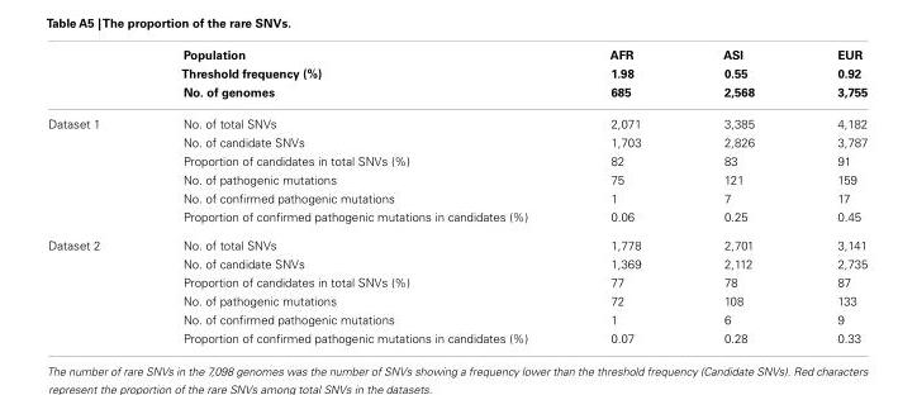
<table><thead><tr><td rowspan="3"></td><td rowspan="3">Population Threshold frequency (%) No. of genomes</td><td rowspan="3">AFR 1.98 685</td><td rowspan="3">ASI 0.55 2,568</td><td rowspan="3">EUR 0.92 3,755</td></tr><tr></tr><tr></tr></thead><tbody><tr><td rowspan="6">Dataset 1</td><td>No. of total SNVs</td><td>2,071</td><td>3,385</td><td>4,182</td></tr><tr><td>No. of candidate SNVs</td><td>1,703</td><td>2,826</td><td>3,787</td></tr><tr><td>Proportion of candidates in total SNVs (%)</td><td>82</td><td>83</td><td>91</td></tr><tr><td>No. of pathogenic mutations</td><td>75</td><td>121</td><td>159</td></tr><tr><td>No. of confirmed pathogenic mutations</td><td>1</td><td>7</td><td>17</td></tr><tr><td>Proportion of confirmed pathogenic mutations in candidates (%)</td><td>0.06</td><td>0.25</td><td>0.45</td></tr><tr><td rowspan="6">Dataset 2</td><td>No. of total SNVs</td><td>1,778</td><td>2,701</td><td>3,141</td></tr><tr><td>No. of candidate SNVs</td><td>1,369</td><td>2,112</td><td>2,735</td></tr><tr><td>Proportion of candidates in total SNVs (%)</td><td>77</td><td>78</td><td>87</td></tr><tr><td>No. of pathogenic mutations</td><td>72</td><td>108</td><td>133</td></tr><tr><td>No. of confirmed pathogenic mutations</td><td>1</td><td>6</td><td>9</td></tr><tr><td>Proportion of confirmed pathogenic mutations in candidates (%)</td><td>0.07</td><td>0.28</td><td>0.33</td></tr></tbody></table>